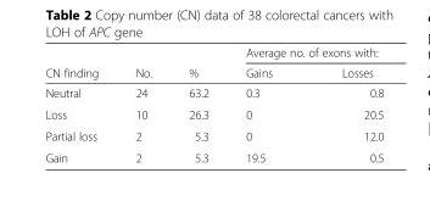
<table><thead><tr><td rowspan="2">CN finding</td><td rowspan="2">No.</td><td rowspan="2">%</td><td colspan="2">Average no. of exons with:</td></tr><tr><td>Gains</td><td>Losses</td></tr></thead><tbody><tr><td>Neutral</td><td>24</td><td>63.2</td><td>0.3</td><td>0.8</td></tr><tr><td>Loss</td><td>10</td><td>26.3</td><td>0</td><td>20.5</td></tr><tr><td>Partial loss</td><td>2</td><td>5.3</td><td>0</td><td>12.0</td></tr><tr><td>Gain</td><td>2</td><td>5.3</td><td>19.5</td><td>0.5</td></tr></tbody></table>